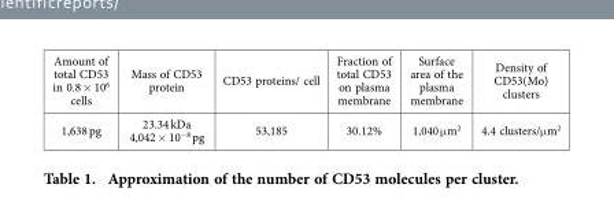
<table><tbody><tr><td>Amount of total CD53 in 0.8 × 10<sup>6</sup> cells</td><td>Mass of CD53 protein</td><td>CD53 proteins/ cell</td><td>Fraction of total CD53 on plasma membrane</td><td>Surface area of the plasma membrane</td><td>Density of CD53(Mo) clusters</td></tr><tr><td>1,638 pg</td><td>23.34 kDa 4,042 × 10<sup>−8</sup> pg</td><td>53,185</td><td>30.12%</td><td>1,040 μ m<sup>2</sup></td><td>4.4 clusters/μ m<sup>2</sup></td></tr></tbody></table>